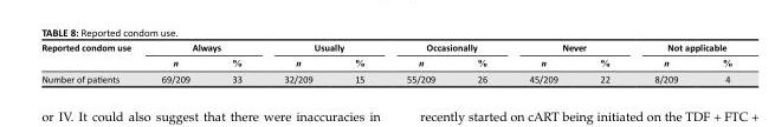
<table><thead><tr><td rowspan="2">Reported condom use</td><td colspan="2">Always</td><td colspan="2">Usually</td><td colspan="2">Occasionally</td><td colspan="2">Never</td><td colspan="2">Not applicable</td></tr><tr><td>n</td><td>%</td><td>n</td><td>%</td><td>n</td><td>%</td><td>n</td><td>%</td><td>n</td><td>%</td></tr></thead><tbody><tr><td>Number of patients</td><td>69/209</td><td>33</td><td>32/209</td><td>15</td><td>55/209</td><td>26</td><td>45/209</td><td>22</td><td>8/209</td><td>4</td></tr></tbody></table>